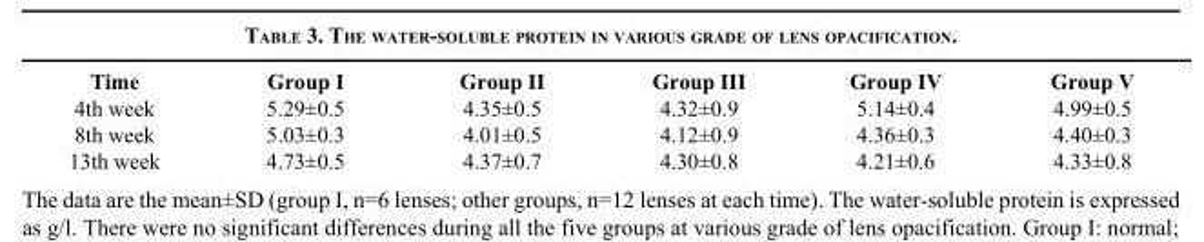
<table><tbody><tr><td>Time</td><td>Group I</td><td>Group II</td><td>Group III</td><td>Group IV</td><td>Group V</td></tr><tr><td>4th week</td><td>5.29±0.5</td><td>4.35±0.5</td><td>4.32±0.9</td><td>5.14±0.4</td><td>4.99±0.5</td></tr><tr><td>8th week</td><td>5.03±0.3</td><td>4.01±0.5</td><td>4.12±0.9</td><td>4.36±0.3</td><td>4.40±0.3</td></tr><tr><td>13th week</td><td>4.73±0.5</td><td>4.37±0.7</td><td>4.30±0.8</td><td>4.21±0.6</td><td>4.33±0.8</td></tr></tbody></table>